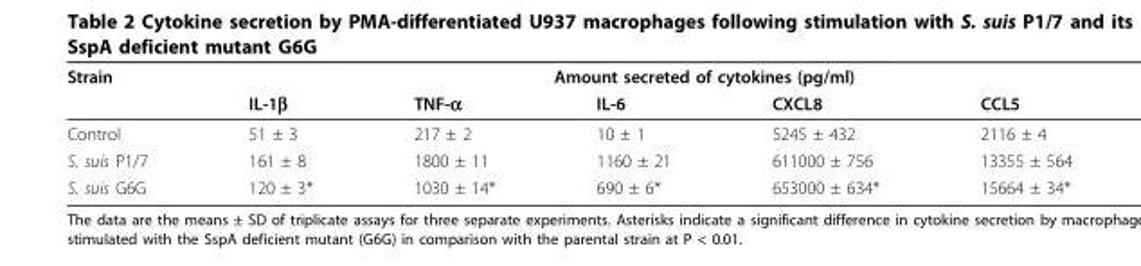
<table><thead><tr><td rowspan="2">Strain</td><td colspan="5">Amount secreted of cytokines (pg/ml)</td></tr><tr><td>IL-1β</td><td>TNF-α</td><td>IL-6</td><td>CXCL8</td><td>CCL5</td></tr></thead><tbody><tr><td>Control</td><td>51 ± 3</td><td>217 ± 2</td><td>10 ± 1</td><td>5245 ± 432</td><td>2116 ± 4</td></tr><tr><td>S. suis P1/7</td><td>161 ± 8</td><td>1800 ± 11</td><td>1160 ± 21</td><td>611000 ± 756</td><td>13355 ± 564</td></tr><tr><td>S. suis G6G</td><td>120 ± 3*</td><td>1030 ± 14*</td><td>690 ± 6*</td><td>653000 ± 634*</td><td>15664 ± 34*</td></tr></tbody></table>